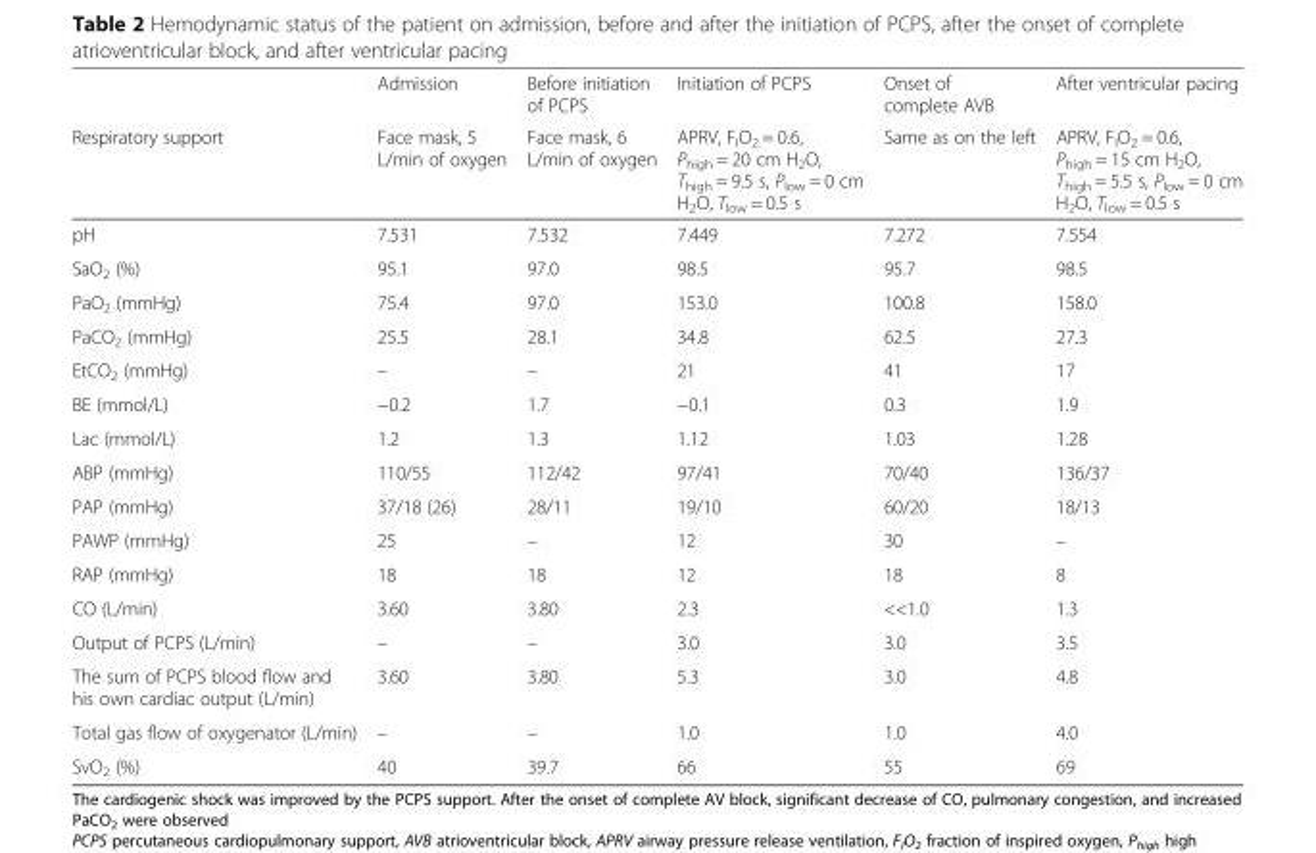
<table><thead><tr><td rowspan="2">Respiratory support</td><td rowspan="2">Admission Face mask, 5 L/min of oxygen</td><td rowspan="2">Before initiation of PCPS Face mask, 6 L/min of oxygen</td><td rowspan="2">Initiation of PCPS APRV, F<sub>I</sub>O<sub>2</sub> = 0.6, P<sub>high</sub> = 20 cm H<sub>2</sub>O, T<sub>high</sub> = 9.5 s, P<sub>low</sub> = 0 cm H<sub>2</sub>O, T<sub>low</sub> = 0.5 s</td><td rowspan="2">Onset of complete AVB Same as on the left</td><td rowspan="2">After ventricular pacing APRV, F<sub>I</sub>O<sub>2</sub> = 0.6, P<sub>high</sub> = 15 cm H<sub>2</sub>O, T<sub>high</sub> = 5.5 s, P<sub>low</sub> = 0 cm H<sub>2</sub>O, T<sub>low</sub> = 0.5 s</td></tr><tr></tr></thead><tbody><tr><td>pH</td><td>7.531</td><td>7.532</td><td>7.449</td><td>7.272</td><td>7.554</td></tr><tr><td>SaO<sub>2</sub> (%)</td><td>95.1</td><td>97.0</td><td>98.5</td><td>95.7</td><td>98.5</td></tr><tr><td>PaO<sub>2</sub> (mmHg)</td><td>75.4</td><td>97.0</td><td>153.0</td><td>100.8</td><td>158.0</td></tr><tr><td>PaCO<sub>2</sub> (mmHg)</td><td>25.5</td><td>28.1</td><td>34.8</td><td>62.5</td><td>27.3</td></tr><tr><td>EtCO<sub>2</sub> (mmHg)</td><td>–</td><td>–</td><td>21</td><td>41</td><td>17</td></tr><tr><td>BE (mmol/L)</td><td>−0.2</td><td>1.7</td><td>−0.1</td><td>0.3</td><td>1.9</td></tr><tr><td>Lac (mmol/L)</td><td>1.2</td><td>1.3</td><td>1.12</td><td>1.03</td><td>1.28</td></tr><tr><td>ABP (mmHg)</td><td>110/55</td><td>112/42</td><td>97/41</td><td>70/40</td><td>136/37</td></tr><tr><td>PAP (mmHg)</td><td>37/18 (26)</td><td>28/11</td><td>19/10</td><td>60/20</td><td>18/13</td></tr><tr><td>PAWP (mmHg)</td><td>25</td><td>–</td><td>12</td><td>30</td><td>–</td></tr><tr><td>RAP (mmHg)</td><td>18</td><td>18</td><td>12</td><td>18</td><td>8</td></tr><tr><td>CO (L/min)</td><td>3.60</td><td>3.80</td><td>2.3</td><td>&lt;&lt;1.0</td><td>1.3</td></tr><tr><td>Output of PCPS (L/min)</td><td>–</td><td>–</td><td>3.0</td><td>3.0</td><td>3.5</td></tr><tr><td>The sum of PCPS blood flow and his own cardiac output (L/min)</td><td>3.60</td><td>3.80</td><td>5.3</td><td>3.0</td><td>4.8</td></tr><tr><td>Total gas flow of oxygenator (L/min)</td><td>–</td><td>–</td><td>1.0</td><td>1.0</td><td>4.0</td></tr><tr><td>SvO<sub>2</sub> (%)</td><td>40</td><td>39.7</td><td>66</td><td>55</td><td>69</td></tr></tbody></table>